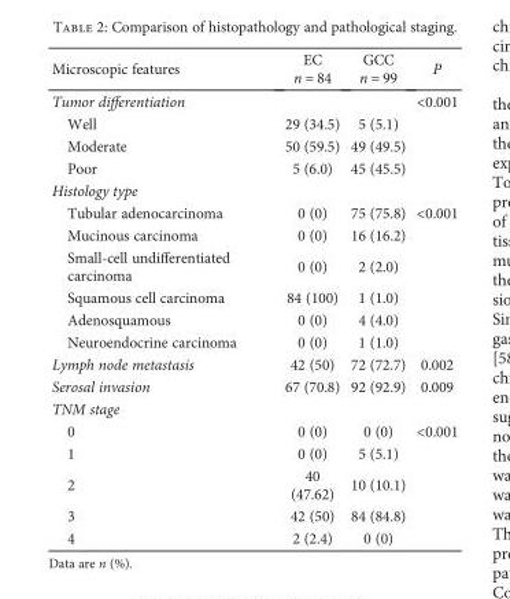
<table><thead><tr><td>Microscopic features</td><td>EC n = 84</td><td>GCC n = 99</td><td>P</td></tr></thead><tbody><tr><td>Tumor differentiation</td><td></td><td></td><td>&lt;0.001</td></tr><tr><td>Well</td><td>29 (34.5)</td><td>5 (5.1)</td><td></td></tr><tr><td>Moderate</td><td>50 (59.5)</td><td>49 (49.5)</td><td></td></tr><tr><td>Poor</td><td>5 (6.0)</td><td>45 (45.5)</td><td></td></tr><tr><td colspan="4">Histology type</td></tr><tr><td>Tubular adenocarcinoma</td><td>0 (0)</td><td>75 (75.8)</td><td>&lt;0.001</td></tr><tr><td>Mucinous carcinoma</td><td>0 (0)</td><td>16 (16.2)</td><td></td></tr><tr><td>Small-cell undifferentiated carcinoma</td><td>0 (0)</td><td>2 (2.0)</td><td></td></tr><tr><td>Squamous cell carcinoma</td><td>84 (100)</td><td>1 (1.0)</td><td></td></tr><tr><td>Adenosquamous</td><td>0 (0)</td><td>4 (4.0)</td><td></td></tr><tr><td>Neuroendocrine carcinoma</td><td>0 (0)</td><td>1 (1.0)</td><td></td></tr><tr><td>Lymph node metastasis</td><td>42 (50)</td><td>72 (72.7)</td><td>0.002</td></tr><tr><td>Serosal invasion</td><td>67 (70.8)</td><td>92 (92.9)</td><td>0.009</td></tr><tr><td colspan="4">TNM stage</td></tr><tr><td>0</td><td>0 (0)</td><td>0 (0)</td><td>&lt;0.001</td></tr><tr><td>1</td><td>0 (0)</td><td>5 (5.1)</td><td></td></tr><tr><td>2</td><td>40 (47.62)</td><td>10 (10.1)</td><td></td></tr><tr><td>3</td><td>42 (50)</td><td>84 (84.8)</td><td></td></tr><tr><td>4</td><td>2 (2.4)</td><td>0 (0)</td><td></td></tr></tbody></table>